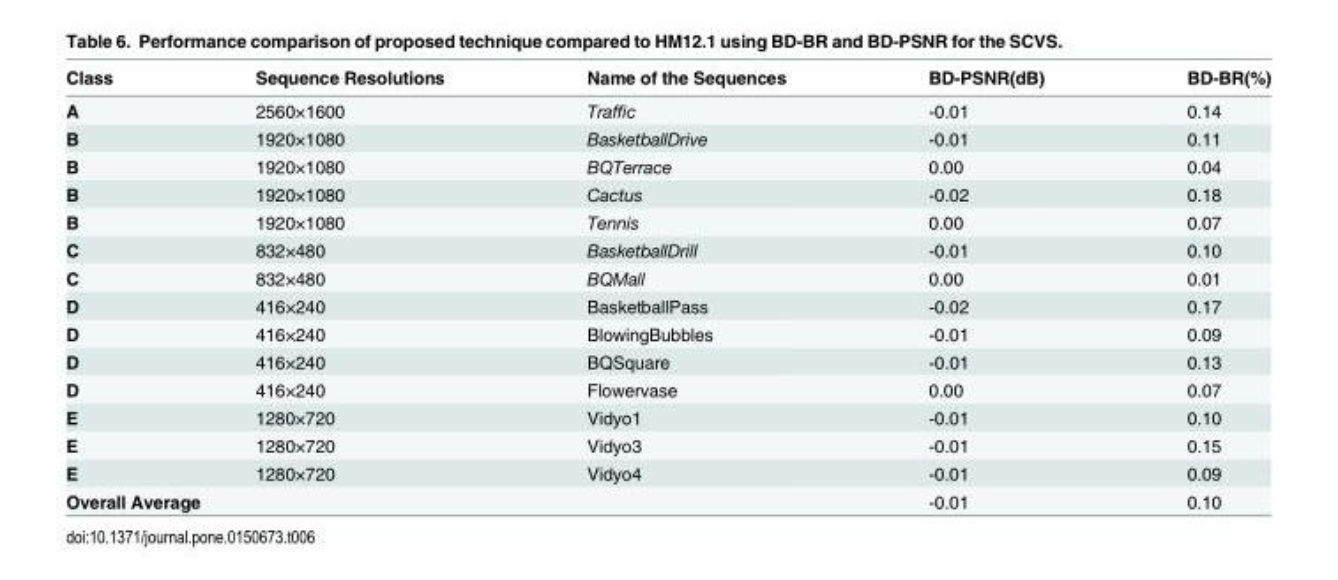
<table><thead><tr><td>Class</td><td>Sequence Resolutions</td><td>Name of the Sequences</td><td>BD-PSNR(dB)</td><td>BD-BR(%)</td></tr></thead><tbody><tr><td>A</td><td>2560×1600</td><td>Traffic</td><td>-0.01</td><td>0.14</td></tr><tr><td>B</td><td>1920×1080</td><td>BasketballDrive</td><td>-0.01</td><td>0.11</td></tr><tr><td>B</td><td>1920×1080</td><td>BQTerrace</td><td>0.00</td><td>0.04</td></tr><tr><td>B</td><td>1920×1080</td><td>Cactus</td><td>-0.02</td><td>0.18</td></tr><tr><td>B</td><td>1920×1080</td><td>Tennis</td><td>0.00</td><td>0.07</td></tr><tr><td>C</td><td>832×480</td><td>BasketballDrill</td><td>-0.01</td><td>0.10</td></tr><tr><td>C</td><td>832×480</td><td>BQMall</td><td>0.00</td><td>0.01</td></tr><tr><td>D</td><td>416×240</td><td>BasketballPass</td><td>-0.02</td><td>0.17</td></tr><tr><td>D</td><td>416×240</td><td>BlowingBubbles</td><td>-0.01</td><td>0.09</td></tr><tr><td>D</td><td>416×240</td><td>BQSquare</td><td>-0.01</td><td>0.13</td></tr><tr><td>D</td><td>416×240</td><td>Flowervase</td><td>0.00</td><td>0.07</td></tr><tr><td>E</td><td>1280×720</td><td>Vidyo1</td><td>-0.01</td><td>0.10</td></tr><tr><td>E</td><td>1280×720</td><td>Vidyo3</td><td>-0.01</td><td>0.15</td></tr><tr><td>E</td><td>1280×720</td><td>Vidyo4</td><td>-0.01</td><td>0.09</td></tr><tr><td colspan="3">Overall Average</td><td>-0.01</td><td>0.10</td></tr></tbody></table>